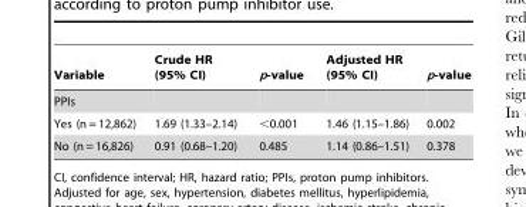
<table><thead><tr><td>Variable</td><td>Crude HR (95% CI)</td><td>p-value</td><td>Adjusted HR (95% CI)</td><td>p-value</td></tr></thead><tbody><tr><td colspan="5">PPIs</td></tr><tr><td>Yes (n = 12,862)</td><td>1.69 (1.33–2.14)</td><td>&lt;0.001</td><td>1.46 (1.15–1.86)</td><td>0.002</td></tr><tr><td>No (n = 16,826)</td><td>0.91 (0.68–1.20)</td><td>0.485</td><td>1.14 (0.86–1.51)</td><td>0.378</td></tr></tbody></table>